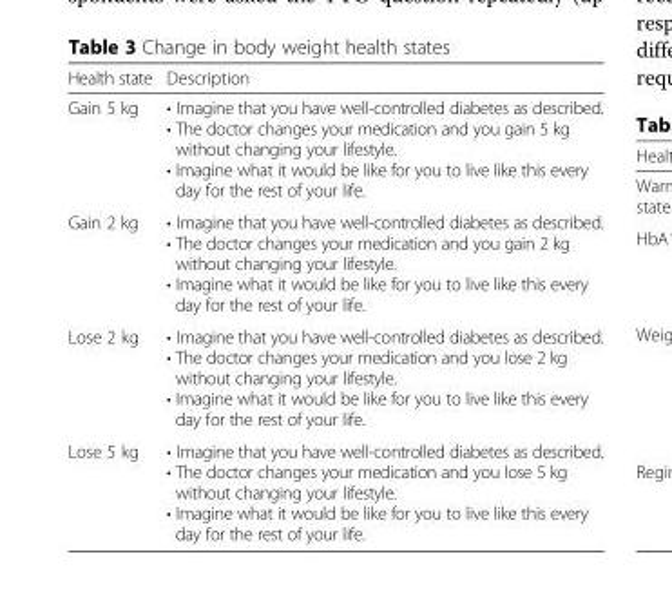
<table><thead><tr><td>Health state</td><td>Description</td></tr></thead><tbody><tr><td>Gain 5 kg</td><td>• Imagine that you have well-controlled diabetes as described. • The doctor changes your medication and you gain 5 kg without changing your lifestyle. • Imagine what it would be like for you to live like this every day for the rest of your life.</td></tr><tr><td>Gain 2 kg</td><td>• Imagine that you have well-controlled diabetes as described. • The doctor changes your medication and you gain 2 kg without changing your lifestyle. • Imagine what it would be like for you to live like this every day for the rest of your life.</td></tr><tr><td>Lose 2 kg</td><td>• Imagine that you have well-controlled diabetes as described. • The doctor changes your medication and you lose 2 kg without changing your lifestyle. • Imagine what it would be like for you to live like this every day for the rest of your life.</td></tr><tr><td>Lose 5 kg</td><td>• Imagine that you have well-controlled diabetes as described. • The doctor changes your medication and you lose 5 kg without changing your lifestyle. • Imagine what it would be like for you to live like this every day for the rest of your life.</td></tr></tbody></table>